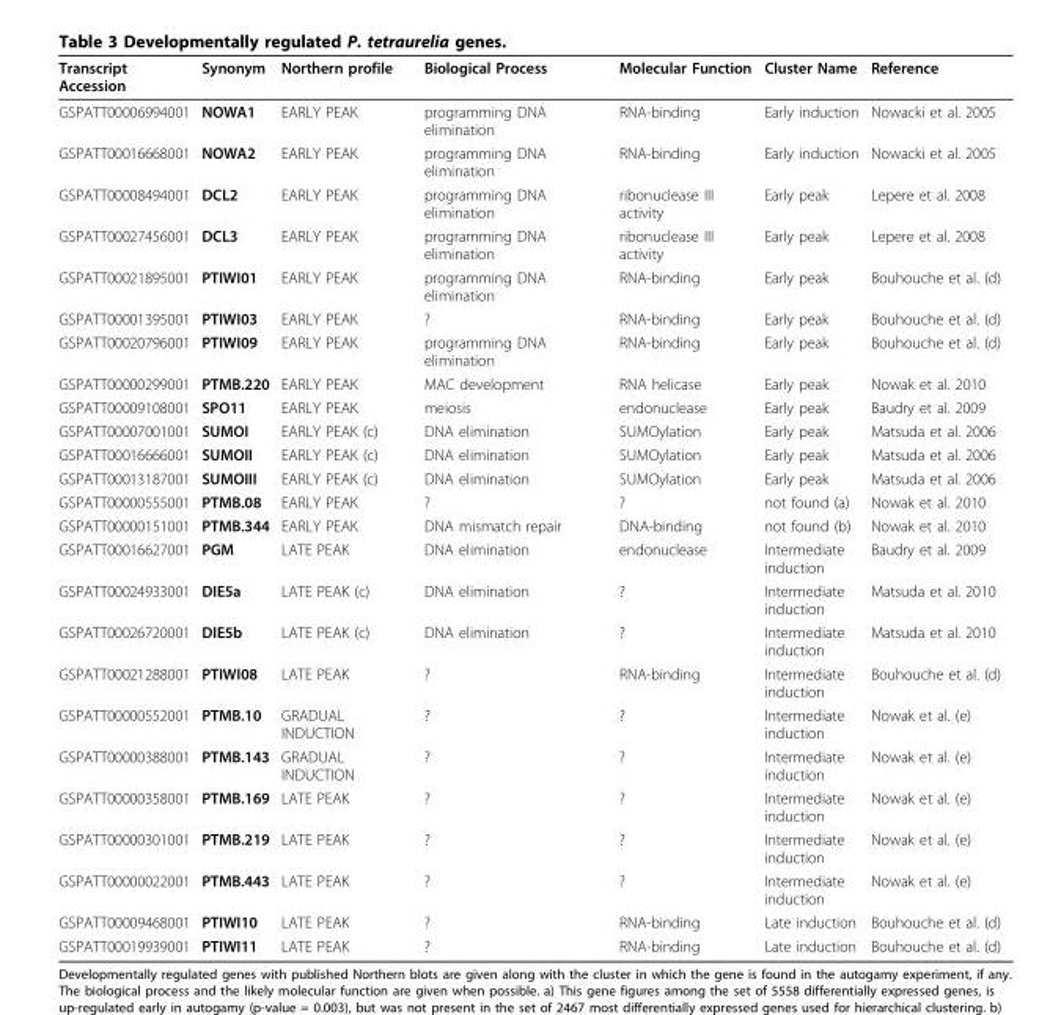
<table><thead><tr><td>Transcript Accession</td><td>Synonym</td><td>Northern profile</td><td>Biological Process</td><td>Molecular Function</td><td>Cluster Name</td><td>Reference</td></tr></thead><tbody><tr><td>GSPATT00006994001</td><td>NOWA1</td><td>EARLY PEAK</td><td>programming DNA elimination</td><td>RNA-binding</td><td>Early induction</td><td>Nowacki et al. 2005</td></tr><tr><td>GSPATT00016668001</td><td>NOWA2</td><td>EARLY PEAK</td><td>programming DNA elimination</td><td>RNA-binding</td><td>Early induction</td><td>Nowacki et al. 2005</td></tr><tr><td>GSPATT00008494001</td><td>DCL2</td><td>EARLY PEAK</td><td>programming DNA elimination</td><td>ribonuclease III activity</td><td>Early peak</td><td>Lepere et al. 2008</td></tr><tr><td>GSPATT00027456001</td><td>DCL3</td><td>EARLY PEAK</td><td>programming DNA elimination</td><td>ribonuclease III activity</td><td>Early peak</td><td>Lepere et al. 2008</td></tr><tr><td>GSPATT00021895001</td><td>PTIWI01</td><td>EARLY PEAK</td><td>programming DNA elimination</td><td>RNA-binding</td><td>Early peak</td><td>Bouhouche et al. (d)</td></tr><tr><td>GSPATT00001395001</td><td>PTIWI03</td><td>EARLY PEAK</td><td>?</td><td>RNA-binding</td><td>Early peak</td><td>Bouhouche et al. (d)</td></tr><tr><td>GSPATT00020796001</td><td>PTIWI09</td><td>EARLY PEAK</td><td>programming DNA elimination</td><td>RNA-binding</td><td>Early peak</td><td>Bouhouche et al. (d)</td></tr><tr><td>GSPATT00000299001</td><td>PTMB.220</td><td>EARLY PEAK</td><td>MAC development</td><td>RNA helicase</td><td>Early peak</td><td>Nowak et al. 2010</td></tr><tr><td>GSPATT00009108001</td><td>SPO11</td><td>EARLY PEAK</td><td>meiosis</td><td>endonuclease</td><td>Early peak</td><td>Baudry et al. 2009</td></tr><tr><td>GSPATT00007001001</td><td>SUMOI</td><td>EARLY PEAK (c)</td><td>DNA elimination</td><td>SUMOylation</td><td>Early peak</td><td>Matsuda et al. 2006</td></tr><tr><td>GSPATT00016666001</td><td>SUMOII</td><td>EARLY PEAK (c)</td><td>DNA elimination</td><td>SUMOylation</td><td>Early peak</td><td>Matsuda et al. 2006</td></tr><tr><td>GSPATT00013187001</td><td>SUMOIII</td><td>EARLY PEAK (c)</td><td>DNA elimination</td><td>SUMOylation</td><td>Early peak</td><td>Matsuda et al. 2006</td></tr><tr><td>GSPATT00000555001</td><td>PTMB.08</td><td>EARLY PEAK</td><td>?</td><td>?</td><td>not found (a)</td><td>Nowak et al. 2010</td></tr><tr><td>GSPATT00000151001</td><td>PTMB.344</td><td>EARLY PEAK</td><td>DNA mismatch repair</td><td>DNA-binding</td><td>not found (b)</td><td>Nowak et al. 2010</td></tr><tr><td>GSPATT00016627001</td><td>PGM</td><td>LATE PEAK</td><td>DNA elimination</td><td>endonuclease</td><td>Intermediate induction</td><td>Baudry et al. 2009</td></tr><tr><td>GSPATT00024933001</td><td>DIE5a</td><td>LATE PEAK (c)</td><td>DNA elimination</td><td>?</td><td>Intermediate induction</td><td>Matsuda et al. 2010</td></tr><tr><td>GSPATT00026720001</td><td>DIE5b</td><td>LATE PEAK (c)</td><td>DNA elimination</td><td>?</td><td>Intermediate induction</td><td>Matsuda et al. 2010</td></tr><tr><td>GSPATT00021288001</td><td>PTIWI08</td><td>LATE PEAK</td><td>?</td><td>RNA-binding</td><td>Intermediate induction</td><td>Bouhouche et al. (d)</td></tr><tr><td>GSPATT00000552001</td><td>PTMB.10</td><td>GRADUAL INDUCTION</td><td>?</td><td>?</td><td>Intermediate induction</td><td>Nowak et al. (e)</td></tr><tr><td>GSPATT00000388001</td><td>PTMB.143</td><td>GRADUAL INDUCTION</td><td>?</td><td>?</td><td>Intermediate induction</td><td>Nowak et al. (e)</td></tr><tr><td>GSPATT00000358001</td><td>PTMB.169</td><td>LATE PEAK</td><td>?</td><td>?</td><td>Intermediate induction</td><td>Nowak et al. (e)</td></tr><tr><td>GSPATT00000301001</td><td>PTMB.219</td><td>LATE PEAK</td><td>?</td><td>?</td><td>Intermediate induction</td><td>Nowak et al. (e)</td></tr><tr><td>GSPATT00000022001</td><td>PTMB.443</td><td>LATE PEAK</td><td>?</td><td>?</td><td>Intermediate induction</td><td>Nowak et al. (e)</td></tr><tr><td>GSPATT00009468001</td><td>PTIWI10</td><td>LATE PEAK</td><td>?</td><td>RNA-binding</td><td>Late induction</td><td>Bouhouche et al. (d)</td></tr><tr><td>GSPATT00019939001</td><td>PTIWI11</td><td>LATE PEAK</td><td>?</td><td>RNA-binding</td><td>Late induction</td><td>Bouhouche et al. (d)</td></tr></tbody></table>